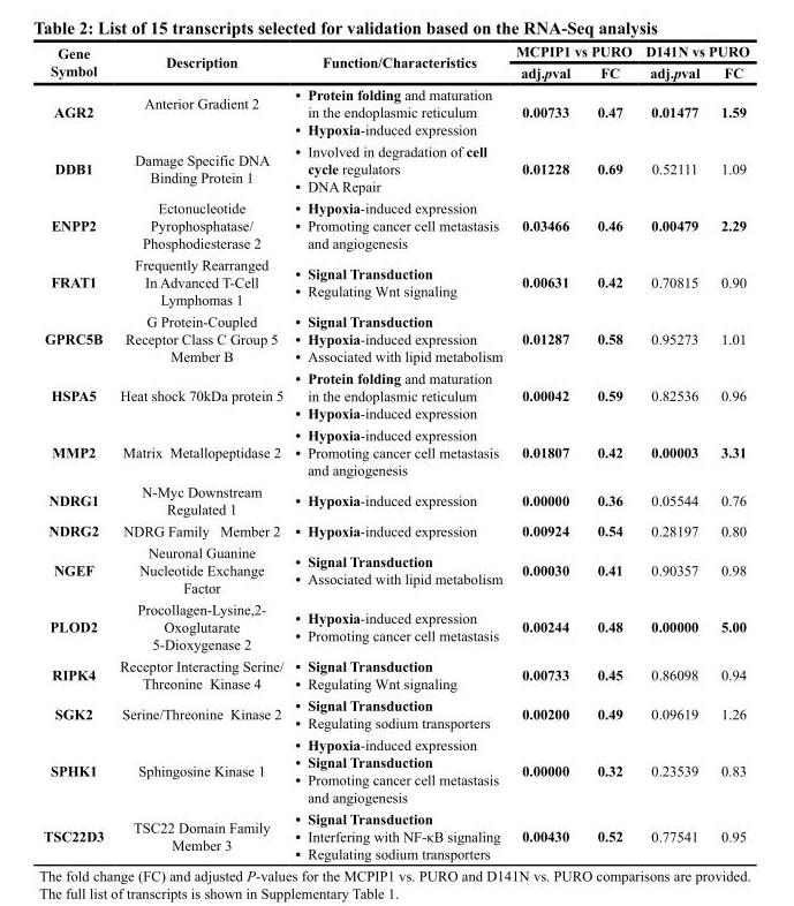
<table><thead><tr><td rowspan="2">Gene Symbol</td><td rowspan="2">Description</td><td rowspan="2">Function/Characteristics</td><td colspan="2">MCPIP1 vs PURO</td><td colspan="2">D141N vs PURO</td></tr><tr><td>adj.pval</td><td>FC</td><td>adj.pval</td><td>FC</td></tr></thead><tbody><tr><td>AGR2</td><td>Anterior Gradient 2</td><td>• Protein folding and maturation in the endoplasmic reticulum • Hypoxia-induced expression</td><td>0.00733</td><td>0.47</td><td>0.01477</td><td>1.59</td></tr><tr><td>DDB1</td><td>Damage Specific DNA Binding Protein 1</td><td>• Involved in degradation of cell cycle regulators • DNA Repair</td><td>0.01228</td><td>0.69</td><td>0.52111</td><td>1.09</td></tr><tr><td>ENPP2</td><td>Ectonucleotide Pyrophosphatase/ Phosphodiesterase 2</td><td>• Hypoxia-induced expression • Promoting cancer cell metastasis and angiogenesis</td><td>0.03466</td><td>0.46</td><td>0.00479</td><td>2.29</td></tr><tr><td>FRAT1</td><td>Frequently Rearranged In Advanced T-Cell Lymphomas 1</td><td>• Signal Transduction • Regulating Wnt signaling</td><td>0.00631</td><td>0.42</td><td>0.70815</td><td>0.90</td></tr><tr><td>GPRC5B</td><td>G Protein-Coupled Receptor Class C Group 5 Member B</td><td>• Signal Transduction • Hypoxia-induced expression • Associated with lipid metabolism</td><td>0.01287</td><td>0.58</td><td>0.95273</td><td>1.01</td></tr><tr><td>HSPA5</td><td>Heat shock 70kDa protein 5</td><td>• Protein folding and maturation in the endoplasmic reticulum • Hypoxia-induced expression</td><td>0.00042</td><td>0.59</td><td>0.82536</td><td>0.96</td></tr><tr><td>MMP2</td><td>Matrix Metallopeptidase 2</td><td>• Hypoxia-induced expression • Promoting cancer cell metastasis and angiogenesis</td><td>0.01807</td><td>0.42</td><td>0.00003</td><td>3.31</td></tr><tr><td>NDRG1</td><td>N-Myc Downstream Regulated 1</td><td>• Hypoxia-induced expression</td><td>0.00000</td><td>0.36</td><td>0.05544</td><td>0.76</td></tr><tr><td>NDRG2</td><td>NDRG Family Member 2</td><td>• Hypoxia-induced expression</td><td>0.00924</td><td>0.54</td><td>0.28197</td><td>0.80</td></tr><tr><td>NGEF</td><td>Neuronal Guanine Nucleotide Exchange Factor</td><td>• Signal Transduction • Associated with lipid metabolism</td><td>0.00030</td><td>0.41</td><td>0.90357</td><td>0.98</td></tr><tr><td>PLOD2</td><td>Procollagen-Lysine,2- Oxoglutarate 5-Dioxygenase 2</td><td>• Hypoxia-induced expression • Promoting cancer cell metastasis</td><td>0.00244</td><td>0.48</td><td>0.00000</td><td>5.00</td></tr><tr><td>RIPK4</td><td>Receptor Interacting Serine/ Threonine Kinase 4</td><td>• Signal Transduction • Regulating Wnt signaling</td><td>0.00733</td><td>0.45</td><td>0.86098</td><td>0.94</td></tr><tr><td>SGK2</td><td>Serine/Threonine Kinase 2</td><td>• Signal Transduction • Regulating sodium transporters</td><td>0.00200</td><td>0.49</td><td>0.09619</td><td>1.26</td></tr><tr><td>SPHK1</td><td>Sphingosine Kinase 1</td><td>• Hypoxia-induced expression • Signal Transduction • Promoting cancer cell metastasis and angiogenesis</td><td>0.00000</td><td>0.32</td><td>0.23539</td><td>0.83</td></tr><tr><td>TSC22D3</td><td>TSC22 Domain Family Member 3</td><td>• Signal Transduction • Interfering with NF-κB signaling • Regulating sodium transporters</td><td>0.00430</td><td>0.52</td><td>0.77541</td><td>0.95</td></tr></tbody></table>